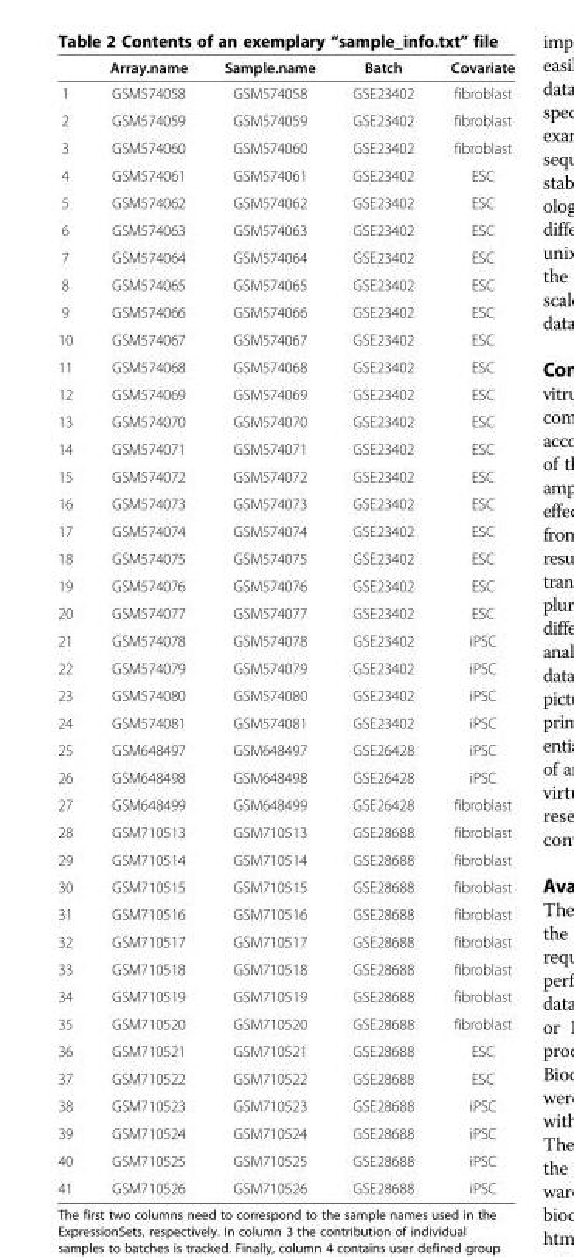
<table><thead><tr><td></td><td>Array.name</td><td>Sample.name</td><td>Batch</td><td>Covariate</td></tr></thead><tbody><tr><td>1</td><td>GSM574058</td><td>GSM574058</td><td>GSE23402</td><td>fibroblast</td></tr><tr><td>2</td><td>GSM574059</td><td>GSM574059</td><td>GSE23402</td><td>fibroblast</td></tr><tr><td>3</td><td>GSM574060</td><td>GSM574060</td><td>GSE23402</td><td>fibroblast</td></tr><tr><td>4</td><td>GSM574061</td><td>GSM574061</td><td>GSE23402</td><td>ESC</td></tr><tr><td>5</td><td>GSM574062</td><td>GSM574062</td><td>GSE23402</td><td>ESC</td></tr><tr><td>6</td><td>GSM574063</td><td>GSM574063</td><td>GSE23402</td><td>ESC</td></tr><tr><td>7</td><td>GSM574064</td><td>GSM574064</td><td>GSE23402</td><td>ESC</td></tr><tr><td>8</td><td>GSM574065</td><td>GSM574065</td><td>GSE23402</td><td>ESC</td></tr><tr><td>9</td><td>GSM574066</td><td>GSM574066</td><td>GSE23402</td><td>ESC</td></tr><tr><td>10</td><td>GSM574067</td><td>GSM574067</td><td>GSE23402</td><td>ESC</td></tr><tr><td>11</td><td>GSM574068</td><td>GSM574068</td><td>GSE23402</td><td>ESC</td></tr><tr><td>12</td><td>GSM574069</td><td>GSM574069</td><td>GSE23402</td><td>ESC</td></tr><tr><td>13</td><td>GSM574070</td><td>GSM574070</td><td>GSE23402</td><td>ESC</td></tr><tr><td>14</td><td>GSM574071</td><td>GSM574071</td><td>GSE23402</td><td>ESC</td></tr><tr><td>15</td><td>GSM574072</td><td>GSM574072</td><td>GSE23402</td><td>ESC</td></tr><tr><td>16</td><td>GSM574073</td><td>GSM574073</td><td>GSE23402</td><td>ESC</td></tr><tr><td>17</td><td>GSM574074</td><td>GSM574074</td><td>GSE23402</td><td>ESC</td></tr><tr><td>18</td><td>GSM574075</td><td>GSM574075</td><td>GSE23402</td><td>ESC</td></tr><tr><td>19</td><td>GSM574076</td><td>GSM574076</td><td>GSE23402</td><td>ESC</td></tr><tr><td>20</td><td>GSM574077</td><td>GSM574077</td><td>GSE23402</td><td>ESC</td></tr><tr><td>21</td><td>GSM574078</td><td>GSM574078</td><td>GSE23402</td><td>iPSC</td></tr><tr><td>22</td><td>GSM574079</td><td>GSM574079</td><td>GSE23402</td><td>iPSC</td></tr><tr><td>23</td><td>GSM574080</td><td>GSM574080</td><td>GSE23402</td><td>iPSC</td></tr><tr><td>24</td><td>GSM574081</td><td>GSM574081</td><td>GSE23402</td><td>iPSC</td></tr><tr><td>25</td><td>GSM648497</td><td>GSM648497</td><td>GSE26428</td><td>iPSC</td></tr><tr><td>26</td><td>GSM648498</td><td>GSM648498</td><td>GSE26428</td><td>iPSC</td></tr><tr><td>27</td><td>GSM648499</td><td>GSM648499</td><td>GSE26428</td><td>fibroblast</td></tr><tr><td>28</td><td>GSM710513</td><td>GSM710513</td><td>GSE28688</td><td>fibroblast</td></tr><tr><td>29</td><td>GSM710514</td><td>GSM710514</td><td>GSE28688</td><td>fibroblast</td></tr><tr><td>30</td><td>GSM710515</td><td>GSM710515</td><td>GSE28688</td><td>fibroblast</td></tr><tr><td>31</td><td>GSM710516</td><td>GSM710516</td><td>GSE28688</td><td>fibroblast</td></tr><tr><td>32</td><td>GSM710517</td><td>GSM710517</td><td>GSE28688</td><td>fibroblast</td></tr><tr><td>33</td><td>GSM710518</td><td>GSM710518</td><td>GSE28688</td><td>fibroblast</td></tr><tr><td>34</td><td>GSM710519</td><td>GSM710519</td><td>GSE28688</td><td>fibroblast</td></tr><tr><td>35</td><td>GSM710520</td><td>GSM710520</td><td>GSE28688</td><td>fibroblast</td></tr><tr><td>36</td><td>GSM710521</td><td>GSM710521</td><td>GSE28688</td><td>ESC</td></tr><tr><td>37</td><td>GSM710522</td><td>GSM710522</td><td>GSE28688</td><td>ESC</td></tr><tr><td>38</td><td>GSM710523</td><td>GSM710523</td><td>GSE28688</td><td>iPSC</td></tr><tr><td>39</td><td>GSM710524</td><td>GSM710524</td><td>GSE28688</td><td>iPSC</td></tr><tr><td>40</td><td>GSM710525</td><td>GSM710525</td><td>GSE28688</td><td>iPSC</td></tr><tr><td>41</td><td>GSM710526</td><td>GSM710526</td><td>GSE28688</td><td>iPSC</td></tr></tbody></table>